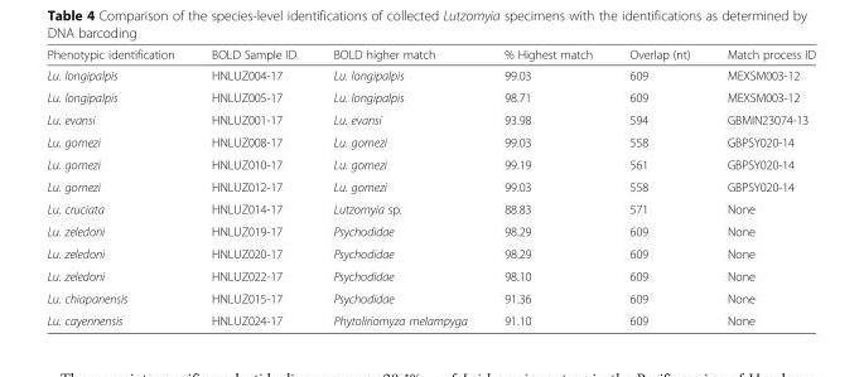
<table><thead><tr><td>Phenotypic identification</td><td>BOLD Sample ID</td><td>BOLD higher match</td><td>% Highest match</td><td>Overlap (nt)</td><td>Match process ID</td></tr></thead><tbody><tr><td>Lu. longipalpis</td><td>HNLUZ004-17</td><td>Lu. longipalpis</td><td>99.03</td><td>609</td><td>MEXSM003-12</td></tr><tr><td>Lu. longipalpis</td><td>HNLUZ005-17</td><td>Lu. longipalpis</td><td>98.71</td><td>609</td><td>MEXSM003-12</td></tr><tr><td>Lu. evansi</td><td>HNLUZ001-17</td><td>Lu. evansi</td><td>93.98</td><td>594</td><td>GBMIN23074-13</td></tr><tr><td>Lu. gomezi</td><td>HNLUZ008-17</td><td>Lu. gomezi</td><td>99.03</td><td>558</td><td>GBPSY020-14</td></tr><tr><td>Lu. gomezi</td><td>HNLUZ010-17</td><td>Lu. gomezi</td><td>99.19</td><td>561</td><td>GBPSY020-14</td></tr><tr><td>Lu. gomezi</td><td>HNLUZ012-17</td><td>Lu. gomezi</td><td>99.03</td><td>558</td><td>GBPSY020-14</td></tr><tr><td>Lu. cruciata</td><td>HNLUZ014-17</td><td>Lutzomyia sp.</td><td>88.83</td><td>571</td><td>None</td></tr><tr><td>Lu. zeledoni</td><td>HNLUZ019-17</td><td>Psychodidae</td><td>98.29</td><td>609</td><td>None</td></tr><tr><td>Lu. zeledoni</td><td>HNLUZ020-17</td><td>Psychodidae</td><td>98.29</td><td>609</td><td>None</td></tr><tr><td>Lu. zeledoni</td><td>HNLUZ022-17</td><td>Psychodidae</td><td>98.10</td><td>609</td><td>None</td></tr><tr><td>Lu. chiapanensis</td><td>HNLUZ015-17</td><td>Psychodidae</td><td>91.36</td><td>609</td><td>None</td></tr><tr><td>Lu. cayennensis</td><td>HNLUZ024-17</td><td>Phytoliriomyza melampyga</td><td>91.10</td><td>609</td><td>None</td></tr></tbody></table>